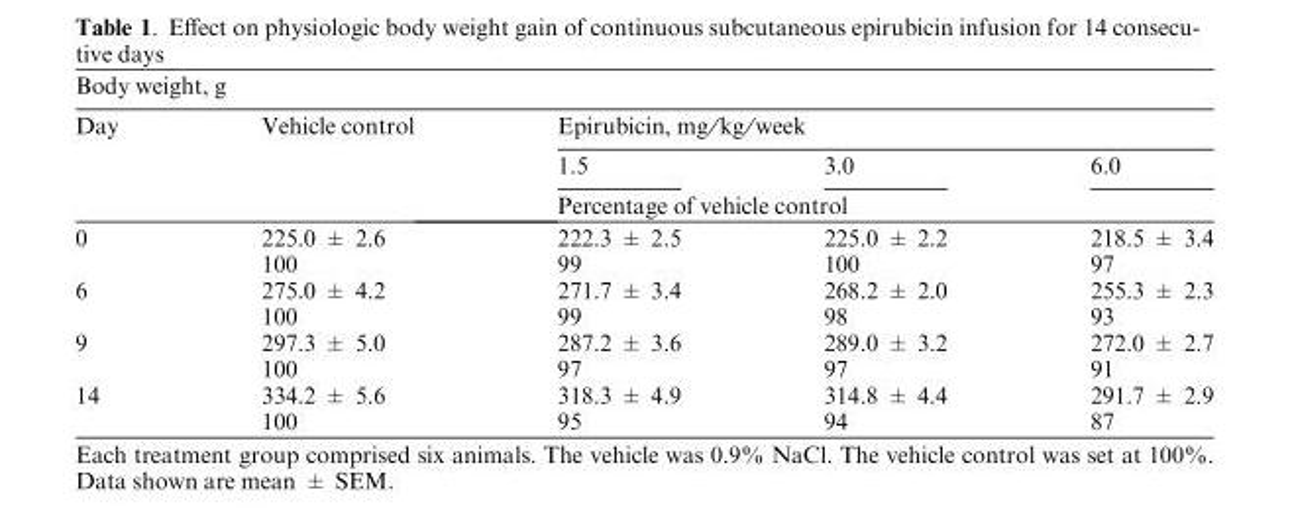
<table><thead><tr><td colspan="5">Body weight, g</td></tr><tr><td rowspan="3">Day</td><td rowspan="3">Vehicle control</td><td colspan="3">Epirubicin, mg ⁄kg ⁄ week</td></tr><tr><td>1.5</td><td>3.0</td><td>6.0</td></tr><tr><td colspan="3">Percentage of vehicle control</td></tr></thead><tbody><tr><td rowspan="2">0</td><td>225.0 ± 2.6</td><td>222.3 ± 2.5</td><td>225.0 ± 2.2</td><td>218.5 ± 3.4</td></tr><tr><td>100</td><td>99</td><td>100</td><td>97</td></tr><tr><td rowspan="2">6</td><td>275.0 ± 4.2</td><td>271.7 ± 3.4</td><td>268.2 ± 2.0</td><td>255.3 ± 2.3</td></tr><tr><td>100</td><td>99</td><td>98</td><td>93</td></tr><tr><td rowspan="2">9</td><td>297.3 ± 5.0</td><td>287.2 ± 3.6</td><td>289.0 ± 3.2</td><td>272.0 ± 2.7</td></tr><tr><td>100</td><td>97</td><td>97</td><td>91</td></tr><tr><td rowspan="2">14</td><td>334.2 ± 5.6</td><td>318.3 ± 4.9</td><td>314.8 ± 4.4</td><td>291.7 ± 2.9</td></tr><tr><td>100</td><td>95</td><td>94</td><td>87</td></tr></tbody></table>